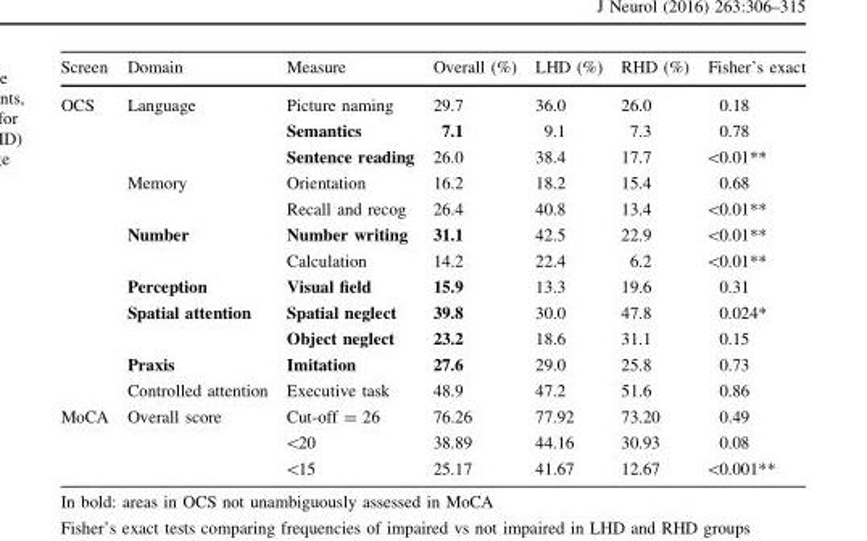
<table><thead><tr><td>Screen</td><td>Domain</td><td>Measure</td><td>Overall (%)</td><td>LHD (%)</td><td>RHD (%)</td><td>Fisher’s exact</td></tr></thead><tbody><tr><td rowspan="12">OCS</td><td>Language</td><td>Picture naming</td><td>29.7</td><td>36.0</td><td>26.0</td><td>0.18</td></tr><tr><td></td><td>Semantics</td><td>7.1</td><td>9.1</td><td>7.3</td><td>0.78</td></tr><tr><td></td><td>Sentence reading</td><td>26.0</td><td>38.4</td><td>17.7</td><td>&lt;0.01**</td></tr><tr><td>Memory</td><td>Orientation</td><td>16.2</td><td>18.2</td><td>15.4</td><td>0.68</td></tr><tr><td></td><td>Recall and recog</td><td>26.4</td><td>40.8</td><td>13.4</td><td>&lt;0.01**</td></tr><tr><td>Number</td><td>Number writing</td><td>31.1</td><td>42.5</td><td>22.9</td><td>&lt;0.01**</td></tr><tr><td></td><td>Calculation</td><td>14.2</td><td>22.4</td><td>6.2</td><td>&lt;0.01**</td></tr><tr><td>Perception</td><td>Visual field</td><td>15.9</td><td>13.3</td><td>19.6</td><td>0.31</td></tr><tr><td>Spatial attention</td><td>Spatial neglect</td><td>39.8</td><td>30.0</td><td>47.8</td><td>0.024*</td></tr><tr><td></td><td>Object neglect</td><td>23.2</td><td>18.6</td><td>31.1</td><td>0.15</td></tr><tr><td>Praxis</td><td>Imitation</td><td>27.6</td><td>29.0</td><td>25.8</td><td>0.73</td></tr><tr><td>Controlled attention</td><td>Executive task</td><td>48.9</td><td>47.2</td><td>51.6</td><td>0.86</td></tr><tr><td rowspan="3">MoCA</td><td>Overall score</td><td>Cut-off = 26</td><td>76.26</td><td>77.92</td><td>73.20</td><td>0.49</td></tr><tr><td></td><td>&lt;20</td><td>38.89</td><td>44.16</td><td>30.93</td><td>0.08</td></tr><tr><td></td><td>&lt;15</td><td>25.17</td><td>41.67</td><td>12.67</td><td>&lt;0.001**</td></tr></tbody></table>